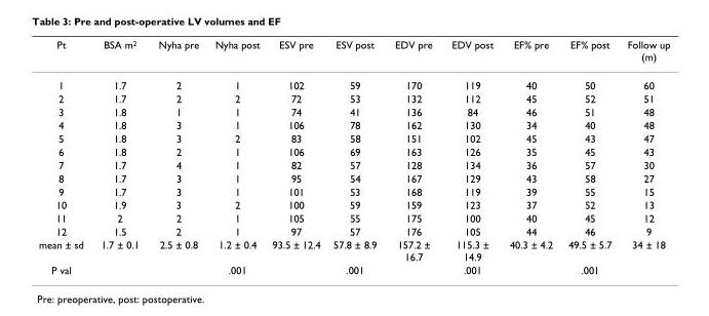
<table><thead><tr><td>Pt</td><td>BSA m<sup>2</sup></td><td>Nyha pre</td><td>Nyha post</td><td>ESV pre</td><td>ESV post</td><td>EDV pre</td><td>EDV post</td><td>EF% pre</td><td>EF% post</td><td>Follow up (m)</td></tr></thead><tbody><tr><td>1</td><td>1.7</td><td>2</td><td>1</td><td>102</td><td>59</td><td>170</td><td>119</td><td>40</td><td>50</td><td>60</td></tr><tr><td>2</td><td>1.7</td><td>2</td><td>2</td><td>72</td><td>53</td><td>132</td><td>112</td><td>45</td><td>52</td><td>51</td></tr><tr><td>3</td><td>1.8</td><td>1</td><td>1</td><td>74</td><td>41</td><td>136</td><td>84</td><td>46</td><td>51</td><td>48</td></tr><tr><td>4</td><td>1.8</td><td>3</td><td>1</td><td>106</td><td>78</td><td>162</td><td>130</td><td>34</td><td>40</td><td>48</td></tr><tr><td>5</td><td>1.8</td><td>3</td><td>2</td><td>83</td><td>58</td><td>151</td><td>102</td><td>45</td><td>43</td><td>47</td></tr><tr><td>6</td><td>1.8</td><td>2</td><td>1</td><td>106</td><td>69</td><td>163</td><td>126</td><td>35</td><td>45</td><td>43</td></tr><tr><td>7</td><td>1.7</td><td>4</td><td>1</td><td>82</td><td>57</td><td>128</td><td>134</td><td>36</td><td>57</td><td>30</td></tr><tr><td>8</td><td>1.7</td><td>3</td><td>1</td><td>95</td><td>54</td><td>167</td><td>129</td><td>43</td><td>58</td><td>27</td></tr><tr><td>9</td><td>1.7</td><td>3</td><td>1</td><td>101</td><td>53</td><td>168</td><td>119</td><td>39</td><td>55</td><td>15</td></tr><tr><td>10</td><td>1.9</td><td>3</td><td>2</td><td>100</td><td>59</td><td>159</td><td>123</td><td>37</td><td>52</td><td>13</td></tr><tr><td>11</td><td>2</td><td>2</td><td>1</td><td>105</td><td>55</td><td>175</td><td>100</td><td>40</td><td>45</td><td>12</td></tr><tr><td>12</td><td>1.5</td><td>2</td><td>1</td><td>97</td><td>57</td><td>176</td><td>105</td><td>44</td><td>46</td><td>9</td></tr><tr><td>mean ± sd</td><td>1.7 ± 0.1</td><td>2.5 ± 0.8</td><td>1.2 ± 0.4</td><td>93.5 ± 12.4</td><td>57.8 ± 8.9</td><td>157.2 ± 16.7</td><td>115.3 ± 14.9</td><td>40.3 ± 4.2</td><td>49.5 ± 5.7</td><td>34 ± 18</td></tr><tr><td>P val</td><td></td><td></td><td>.001</td><td></td><td>.001</td><td></td><td>.001</td><td></td><td>.001</td><td></td></tr></tbody></table>